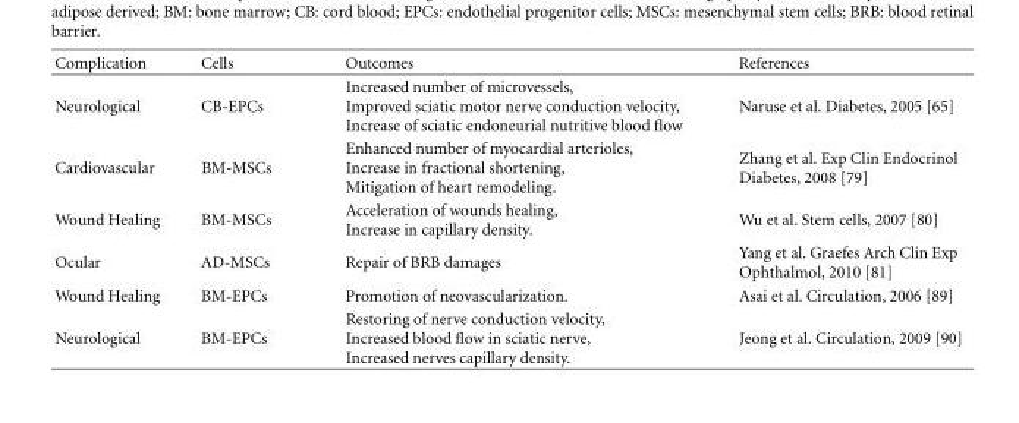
<table><thead><tr><td>Complication</td><td>Cells</td><td>Outcomes</td><td>References</td></tr></thead><tbody><tr><td>Neurological</td><td>CB-EPCs</td><td>Increased number of microvessels, Improved sciatic motor nerve conduction velocity, Increase of sciatic endoneurial nutritive blood flow</td><td>Naruse et al. Diabetes, 2005 [65]</td></tr><tr><td>Cardiovascular</td><td>BM-MSCs</td><td>Enhanced number of myocardial arterioles, Increase in fractional shortening, Mitigation of heart remodeling.</td><td>Zhang et al. Exp Clin Endocrinol Diabetes, 2008 [79]</td></tr><tr><td>Wound Healing</td><td>BM-MSCs</td><td>Acceleration of wounds healing, Increase in capillary density.</td><td>Wu et al. Stem cells, 2007 [80]</td></tr><tr><td>Ocular</td><td>AD-MSCs</td><td>Repair of BRB damages</td><td>Yang et al. Graefes Arch Clin Exp Ophthalmol, 2010 [81]</td></tr><tr><td>Wound Healing</td><td>BM-EPCs</td><td>Promotion of neovascularization.</td><td>Asai et al. Circulation, 2006 [89]</td></tr><tr><td>Neurological</td><td>BM-EPCs</td><td>Restoring of nerve conduction velocity, Increased blood flow in sciatic nerve, Increased nerves capillary density.</td><td>Jeong et al. Circulation, 2009 [90]</td></tr></tbody></table>